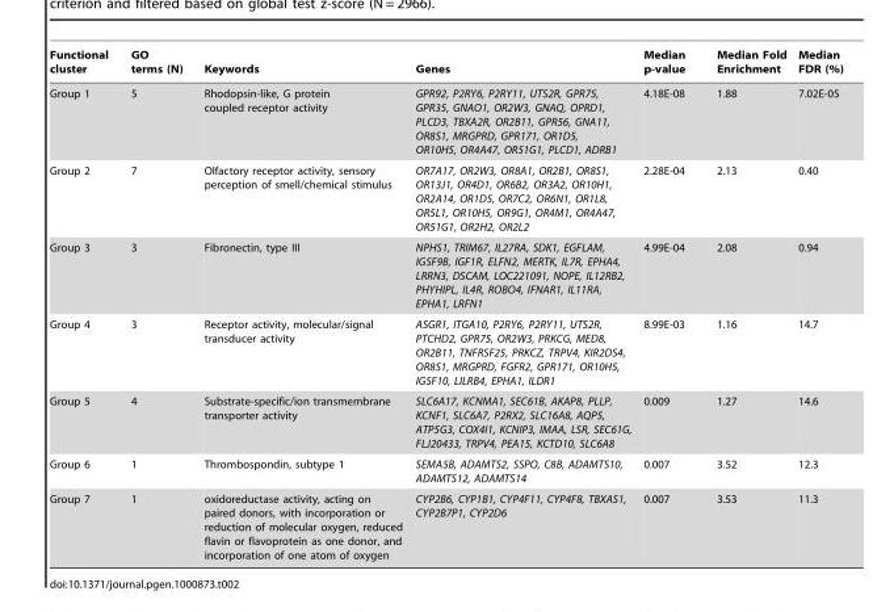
<table><thead><tr><td>Functional cluster</td><td>GO terms (N)</td><td>Keywords</td><td>Genes</td><td>Median p-value</td><td>Median Fold Enrichment</td><td>Median FDR (%)</td></tr></thead><tbody><tr><td>Group 1</td><td>5</td><td>Rhodopsin-like, G protein coupled receptor activity</td><td>GPR92, P2RY6, P2RY11, UTS2R, GPR75, GPR35, GNAO1, OR2W3, GNAQ, OPRD1, PLCD3, TBXA2R, OR2B11, GPR56, GNA11, OR8S1, MRGPRD, GPR171, OR1D5, OR10H5, OR4A47, OR51G1, PLCD1, ADRB1</td><td>4.18E-08</td><td>1.88</td><td>7.02E-05</td></tr><tr><td>Group 2</td><td>7</td><td>Olfactory receptor activity, sensory perception of smell/chemical stimulus</td><td>OR7A17, OR2W3, OR8A1, OR2B1, OR8S1, OR13J1, OR4D1, OR6B2, OR3A2, OR10H1, OR2A14, OR1D5, OR7C2, OR6N1, OR1L8, OR5L1, OR10H5, OR9G1, OR4M1, OR4A47, OR51G1, OR2H2, OR2L2</td><td>2.28E-04</td><td>2.13</td><td>0.40</td></tr><tr><td>Group 3</td><td>3</td><td>Fibronectin, type III</td><td>NPHS1, TRIM67, IL27RA, SDK1, EGFLAM, IGSF9B, IGF1R, ELFN2, MERTK, IL7R, EPHA4, LRRN3, DSCAM, LOC221091, NOPE, IL12RB2, PHYHIPL, IL4R, ROBO4, IFNAR1, IL11RA, EPHA1, LRFN1</td><td>4.99E-04</td><td>2.08</td><td>0.94</td></tr><tr><td>Group 4</td><td>3</td><td>Receptor activity, molecular/signal transducer activity</td><td>ASGR1, ITGA10, P2RY6, P2RY11, UTS2R, PTCHD2, GPR75, OR2W3, PRKCG, MED8, OR2B11, TNFRSF25, PRKCZ, TRPV4, KIR2DS4, OR8S1, MRGPRD, FGFR2, GPR171, OR10H5, IGSF10, LILRB4, EPHA1, ILDR1</td><td>8.99E-03</td><td>1.16</td><td>14.7</td></tr><tr><td>Group 5</td><td>4</td><td>Substrate-specific/ion transmembrane transporter activity</td><td>SLC6A17, KCNMA1, SEC61B, AKAP8, PLLP, KCNF1, SLC6A7, P2RX2, SLC16A8, AQP5, ATP5G3, COX4I1, KCNIP3, IMAA, LSR, SEC61G, FLJ20433, TRPV4, PEA15, KCTD10, SLC6A8</td><td>0.009</td><td>1.27</td><td>14.6</td></tr><tr><td>Group 6</td><td>1</td><td>Thrombospondin, subtype 1</td><td>SEMA5B, ADAMTS2, SSPO, C8B, ADAMTS10, ADAMTS12, ADAMTS14</td><td>0.007</td><td>3.52</td><td>12.3</td></tr><tr><td>Group 7</td><td>1</td><td>oxidoreductase activity, acting on paired donors, with incorporation or reduction of molecular oxygen, reduced flavin or flavoprotein as one donor, and incorporation of one atom of oxygen</td><td>CYP2B6, CYP1B1, CYP4F11, CYP4F8, TBXAS1, CYP2B7P1, CYP2D6</td><td>0.007</td><td>3.53</td><td>11.3</td></tr></tbody></table>